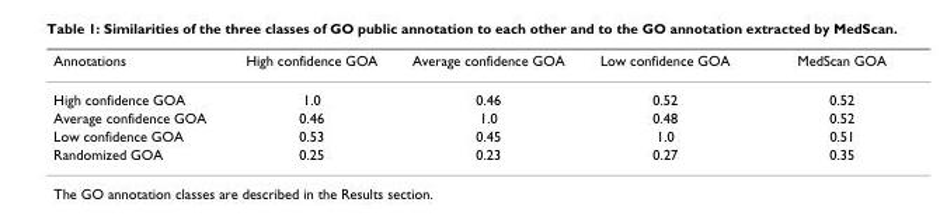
<table><thead><tr><td>Annotations</td><td>High confidence GOA</td><td>Average confidence GOA</td><td>Low confidence GOA</td><td>MedScan GOA</td></tr></thead><tbody><tr><td>High confidence GOA</td><td>1.0</td><td>0.46</td><td>0.52</td><td>0.52</td></tr><tr><td>Average confidence GOA</td><td>0.46</td><td>1.0</td><td>0.48</td><td>0.52</td></tr><tr><td>Low confidence GOA</td><td>0.53</td><td>0.45</td><td>1.0</td><td>0.51</td></tr><tr><td>Randomized GOA</td><td>0.25</td><td>0.23</td><td>0.27</td><td>0.35</td></tr></tbody></table>